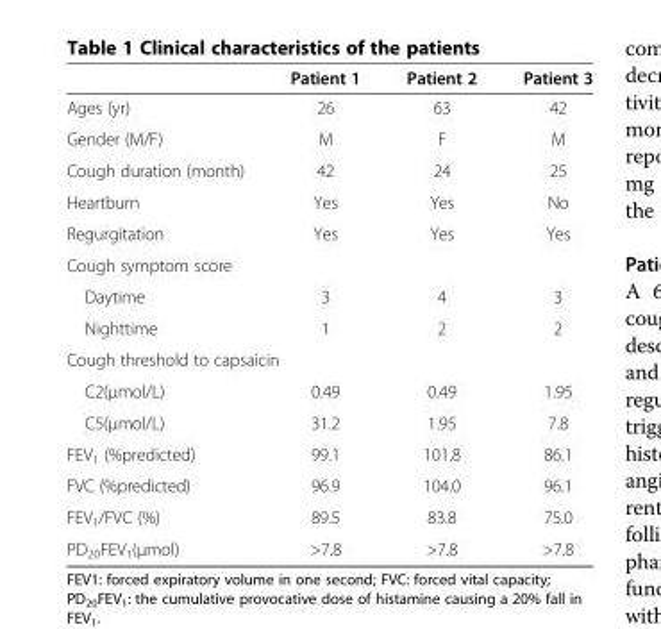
<table><thead><tr><td></td><td>Patient 1</td><td>Patient 2</td><td>Patient 3</td></tr></thead><tbody><tr><td>Ages (yr)</td><td>26</td><td>63</td><td>42</td></tr><tr><td>Gender (M/F)</td><td>M</td><td>F</td><td>M</td></tr><tr><td>Cough duration (month)</td><td>42</td><td>24</td><td>25</td></tr><tr><td>Heartburn</td><td>Yes</td><td>Yes</td><td>No</td></tr><tr><td>Regurgitation</td><td>Yes</td><td>Yes</td><td>Yes</td></tr><tr><td colspan="4">Cough symptom score</td></tr><tr><td>Daytime</td><td>3</td><td>4</td><td>3</td></tr><tr><td>Nighttime</td><td>1</td><td>2</td><td>2</td></tr><tr><td colspan="4">Cough threshold to capsaicin</td></tr><tr><td>C2(μmol/L)</td><td>0.49</td><td>0.49</td><td>1.95</td></tr><tr><td>C5(μmol/L)</td><td>31.2</td><td>1.95</td><td>7.8</td></tr><tr><td>FEV<sub>1</sub> (%predicted)</td><td>99.1</td><td>101.8</td><td>86.1</td></tr><tr><td>FVC (%predicted)</td><td>96.9</td><td>104.0</td><td>96.1</td></tr><tr><td>FEV<sub>1</sub>/FVC (%)</td><td>89.5</td><td>83.8</td><td>75.0</td></tr><tr><td>PD<sub>20</sub>FEV<sub>1</sub>(μmol)</td><td>&gt;7.8</td><td>&gt;7.8</td><td>&gt;7.8</td></tr></tbody></table>